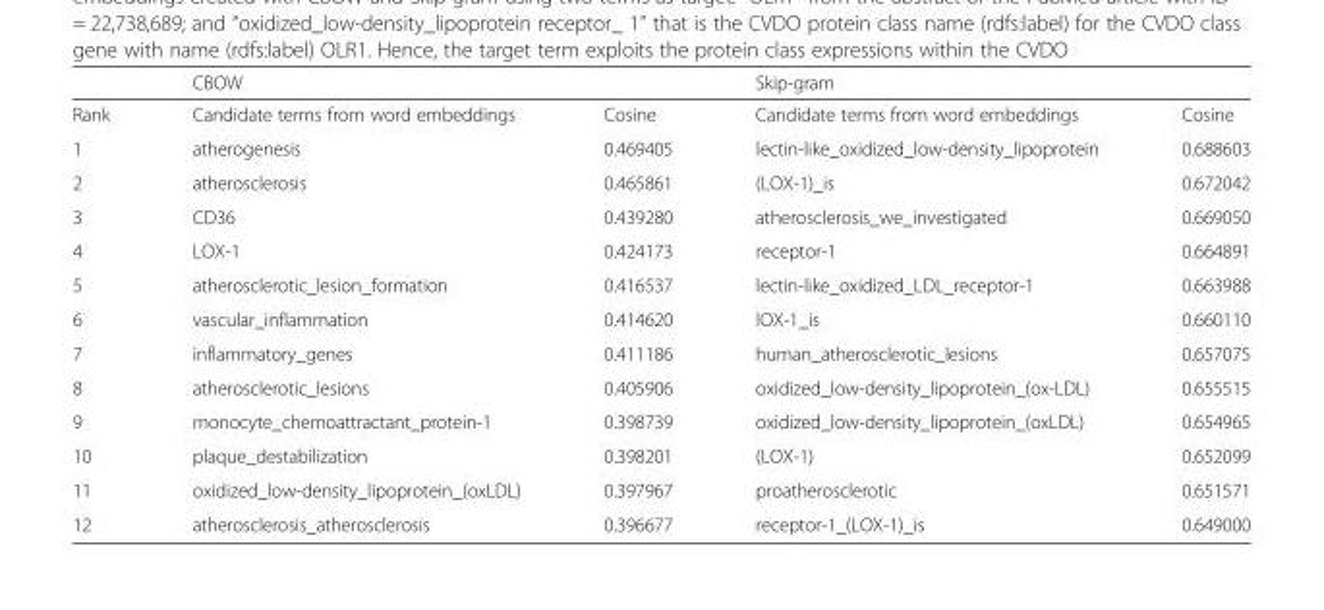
<table><thead><tr><td rowspan="2">Rank</td><td colspan="2">CBOW</td><td colspan="2">Skip-gram</td></tr><tr><td>Candidate terms from word embeddings</td><td>Cosine</td><td>Candidate terms from word embeddings</td><td>Cosine</td></tr></thead><tbody><tr><td>1</td><td>atherogenesis</td><td>0.469405</td><td>lectin-like_oxidized_low-density_lipoprotein</td><td>0.688603</td></tr><tr><td>2</td><td>atherosclerosis</td><td>0.465861</td><td>(LOX-1)_is</td><td>0.672042</td></tr><tr><td>3</td><td>CD36</td><td>0.439280</td><td>atherosclerosis_we_investigated</td><td>0.669050</td></tr><tr><td>4</td><td>LOX-1</td><td>0.424173</td><td>receptor-1</td><td>0.664891</td></tr><tr><td>5</td><td>atherosclerotic_lesion_formation</td><td>0.416537</td><td>lectin-like_oxidized_LDL_receptor-1</td><td>0.663988</td></tr><tr><td>6</td><td>vascular_inflammation</td><td>0.414620</td><td>lOX-1_is</td><td>0.660110</td></tr><tr><td>7</td><td>inflammatory_genes</td><td>0.411186</td><td>human_atherosclerotic_lesions</td><td>0.657075</td></tr><tr><td>8</td><td>atherosclerotic_lesions</td><td>0.405906</td><td>oxidized_low-density_lipoprotein_(ox-LDL)</td><td>0.655515</td></tr><tr><td>9</td><td>monocyte_chemoattractant_protein-1</td><td>0.398739</td><td>oxidized_low-density_lipoprotein_(oxLDL)</td><td>0.654965</td></tr><tr><td>10</td><td>plaque_destabilization</td><td>0.398201</td><td>(LOX-1)</td><td>0.652099</td></tr><tr><td>11</td><td>oxidized_low-density_lipoprotein_(oxLDL)</td><td>0.397967</td><td>proatherosclerotic</td><td>0.651571</td></tr><tr><td>12</td><td>atherosclerosis_atherosclerosis</td><td>0.396677</td><td>receptor-1_(LOX-1)_is</td><td>0.649000</td></tr></tbody></table>